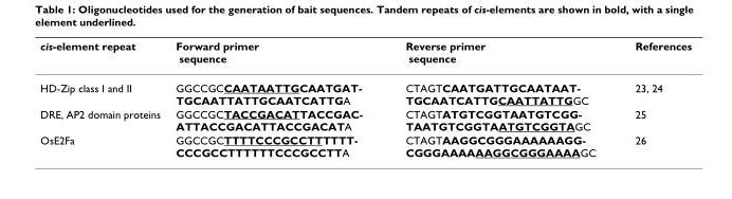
<table><thead><tr><td>cis-element repeat</td><td>Forward primer sequence</td><td>Reverse primer sequence</td><td>References</td></tr></thead><tbody><tr><td>HD-Zip class I and II</td><td>GGCCGCCAATAATTGCAATGAT- TGCAATTATTGCAATCATTGA</td><td>CTAGTCAATGATTGCAATAAT- TGCAATCATTGCAATTATTGGC</td><td>23, 24</td></tr><tr><td>DRE, AP2 domain proteins</td><td>GGCCGCTACCGACATTACCGAC- ATTACCGACATTACCGACATA</td><td>CTAGTATGTCGGTAATGTCGG- TAATGTCGGTAATGTCGGTAGC</td><td>25</td></tr><tr><td>OsE2Fa</td><td>GGCCGCTTTTCCCGCCTTTTTT- CCCGCCTTTTTTCCCGCCTTA</td><td>CTAGTAAGGCGGGAAAAAAGG- CGGGAAAAAAGGCGGGAAAAGC</td><td>26</td></tr></tbody></table>